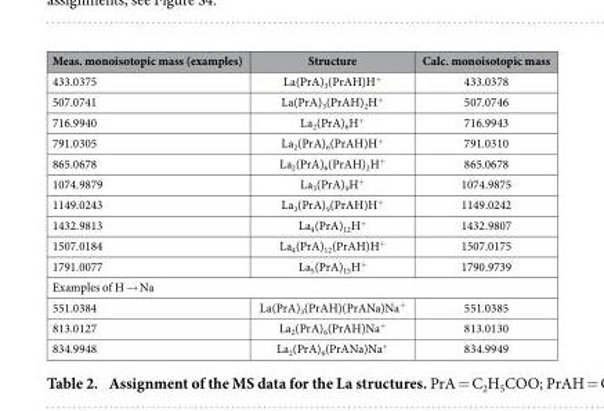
<table><thead><tr><td>Meas. monoisotopic mass (examples)</td><td>Structure</td><td>Calc. monoisotopic mass</td></tr></thead><tbody><tr><td>433.0375</td><td>La(PrA)<sub>3</sub>(PrAH)H<sup>+</sup></td><td>433.0378</td></tr><tr><td>507.0741</td><td>La(PrA)<sub>3</sub>(PrAH)<sub>2</sub>H<sup>+</sup></td><td>507.0746</td></tr><tr><td>716.9940</td><td>La<sub>2</sub>(PrA)<sub>6</sub>H<sup>+</sup></td><td>716.9943</td></tr><tr><td>791.0305</td><td>La<sub>2</sub>(PrA)<sub>6</sub>(PrAH)H<sup>+</sup></td><td>791.0310</td></tr><tr><td>865.0678</td><td>La<sub>2</sub>(PrA)<sub>6</sub>(PrAH)<sub>2</sub>H<sup>+</sup></td><td>865.0678</td></tr><tr><td>1074.9879</td><td>La<sub>3</sub>(PrA)<sub>9</sub>H<sup>+</sup></td><td>1074.9875</td></tr><tr><td>1149.0243</td><td>La<sub>3</sub>(PrA)<sub>9</sub>(PrAH)H<sup>+</sup></td><td>1149.0242</td></tr><tr><td>1432.9813</td><td>La<sub>4</sub>(PrA)<sub>12</sub>H<sup>+</sup></td><td>1432.9807</td></tr><tr><td>1507.0184</td><td>La<sub>4</sub>(PrA)<sub>12</sub>(PrAH)H<sup>+</sup></td><td>1507.0175</td></tr><tr><td>1791.0077</td><td>La<sub>5</sub>(PrA)<sub>15</sub>H<sup>+</sup></td><td>1790.9739</td></tr><tr><td colspan="3">Examples of H → Na</td></tr><tr><td>551.0384</td><td>La(PrA)<sub>3</sub>(PrAH)(PrANa)Na<sup>+</sup></td><td>551.0385</td></tr><tr><td>813.0127</td><td>La<sub>2</sub>(PrA)<sub>6</sub>(PrAH)Na<sup>+</sup></td><td>813.0130</td></tr><tr><td>834.9948</td><td>La<sub>2</sub>(PrA)<sub>6</sub>(PrANa)Na<sup>+</sup></td><td>834.9949</td></tr></tbody></table>